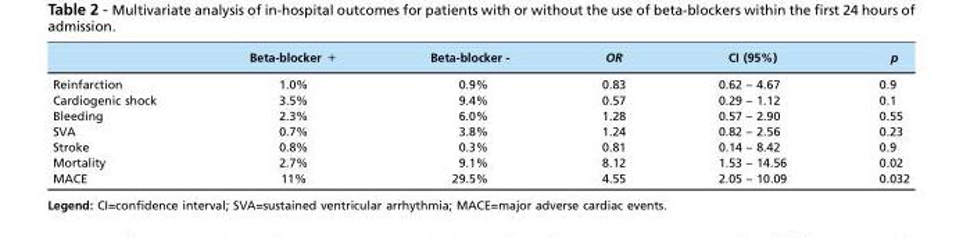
<table><thead><tr><td></td><td>Beta-blocker +</td><td>Beta-blocker -</td><td>OR</td><td>CI (95%)</td><td>p</td></tr></thead><tbody><tr><td>Reinfarction</td><td>1.0%</td><td>0.9%</td><td>0.83</td><td>0.62 – 4.67</td><td>0.9</td></tr><tr><td>Cardiogenic shock</td><td>3.5%</td><td>9.4%</td><td>0.57</td><td>0.29 – 1.12</td><td>0.1</td></tr><tr><td>Bleeding</td><td>2.3%</td><td>6.0%</td><td>1.28</td><td>0.57 – 2.90</td><td>0.55</td></tr><tr><td>SVA</td><td>0.7%</td><td>3.8%</td><td>1.24</td><td>0.82 – 2.56</td><td>0.23</td></tr><tr><td>Stroke</td><td>0.8%</td><td>0.3%</td><td>0.81</td><td>0.14 – 8.42</td><td>0.9</td></tr><tr><td>Mortality</td><td>2.7%</td><td>9.1%</td><td>8.12</td><td>1.53 – 14.56</td><td>0.02</td></tr><tr><td>MACE</td><td>11%</td><td>29.5%</td><td>4.55</td><td>2.05 – 10.09</td><td>0.032</td></tr></tbody></table>